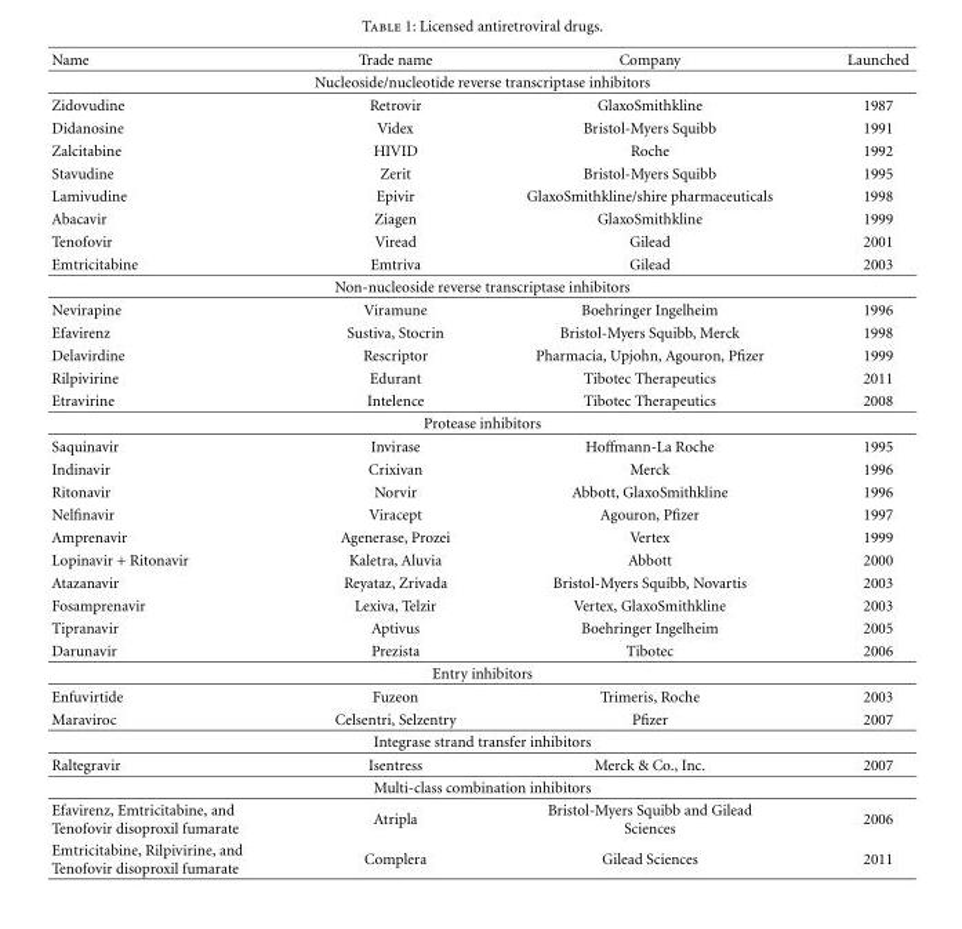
<table><thead><tr><td>Name</td><td>Trade name</td><td>Company</td><td>Launched</td></tr></thead><tbody><tr><td colspan="4">Nucleoside/nucleotide reverse transcriptase inhibitors</td></tr><tr><td>Zidovudine</td><td>Retrovir</td><td>GlaxoSmithkline</td><td>1987</td></tr><tr><td>Didanosine</td><td>Videx</td><td>Bristol-Myers Squibb</td><td>1991</td></tr><tr><td>Zalcitabine</td><td>HIVID</td><td>Roche</td><td>1992</td></tr><tr><td>Stavudine</td><td>Zerit</td><td>Bristol-Myers Squibb</td><td>1995</td></tr><tr><td>Lamivudine</td><td>Epivir</td><td>GlaxoSmithkline/shire pharmaceuticals</td><td>1998</td></tr><tr><td>Abacavir</td><td>Ziagen</td><td>GlaxoSmithkline</td><td>1999</td></tr><tr><td>Tenofovir</td><td>Viread</td><td>Gilead</td><td>2001</td></tr><tr><td>Emtricitabine</td><td>Emtriva</td><td>Gilead</td><td>2003</td></tr><tr><td colspan="4">Non-nucleoside reverse transcriptase inhibitors</td></tr><tr><td>Nevirapine</td><td>Viramune</td><td>Boehringer Ingelheim</td><td>1996</td></tr><tr><td>Efavirenz</td><td>Sustiva, Stocrin</td><td>Bristol-Myers Squibb, Merck</td><td>1998</td></tr><tr><td>Delavirdine</td><td>Rescriptor</td><td>Pharmacia, Upjohn, Agouron, Pfizer</td><td>1999</td></tr><tr><td>Rilpivirine</td><td>Edurant</td><td>Tibotec Therapeutics</td><td>2011</td></tr><tr><td>Etravirine</td><td>Intelence</td><td>Tibotec Therapeutics</td><td>2008</td></tr><tr><td colspan="4">Protease inhibitors</td></tr><tr><td>Saquinavir</td><td>Invirase</td><td>Hoffmann-La Roche</td><td>1995</td></tr><tr><td>Indinavir</td><td>Crixivan</td><td>Merck</td><td>1996</td></tr><tr><td>Ritonavir</td><td>Norvir</td><td>Abbott, GlaxoSmithkline</td><td>1996</td></tr><tr><td>Nelfinavir</td><td>Viracept</td><td>Agouron, Pfizer</td><td>1997</td></tr><tr><td>Amprenavir</td><td>Agenerase, Prozei</td><td>Vertex</td><td>1999</td></tr><tr><td>Lopinavir + Ritonavir</td><td>Kaletra, Aluvia</td><td>Abbott</td><td>2000</td></tr><tr><td>Atazanavir</td><td>Reyataz, Zrivada</td><td>Bristol-Myers Squibb, Novartis</td><td>2003</td></tr><tr><td>Fosamprenavir</td><td>Lexiva, Telzir</td><td>Vertex, GlaxoSmithkline</td><td>2003</td></tr><tr><td>Tipranavir</td><td>Aptivus</td><td>Boehringer Ingelheim</td><td>2005</td></tr><tr><td>Darunavir</td><td>Prezista</td><td>Tibotec</td><td>2006</td></tr><tr><td colspan="4">Entry inhibitors</td></tr><tr><td>Enfuvirtide</td><td>Fuzeon</td><td>Trimeris, Roche</td><td>2003</td></tr><tr><td>Maraviroc</td><td>Celsentri, Selzentry</td><td>Pfizer</td><td>2007</td></tr><tr><td colspan="4">Integrase strand transfer inhibitors</td></tr><tr><td>Raltegravir</td><td>Isentress</td><td>Merck &amp; Co., Inc.</td><td>2007</td></tr><tr><td colspan="4">Multi-class combination inhibitors</td></tr><tr><td>Efavirenz, Emtricitabine, and Tenofovir disoproxil fumarate</td><td>Atripla</td><td>Bristol-Myers Squibb and Gilead Sciences</td><td>2006</td></tr><tr><td>Emtricitabine, Rilpivirine, and Tenofovir disoproxil fumarate</td><td>Complera</td><td>Gilead Sciences</td><td>2011</td></tr></tbody></table>